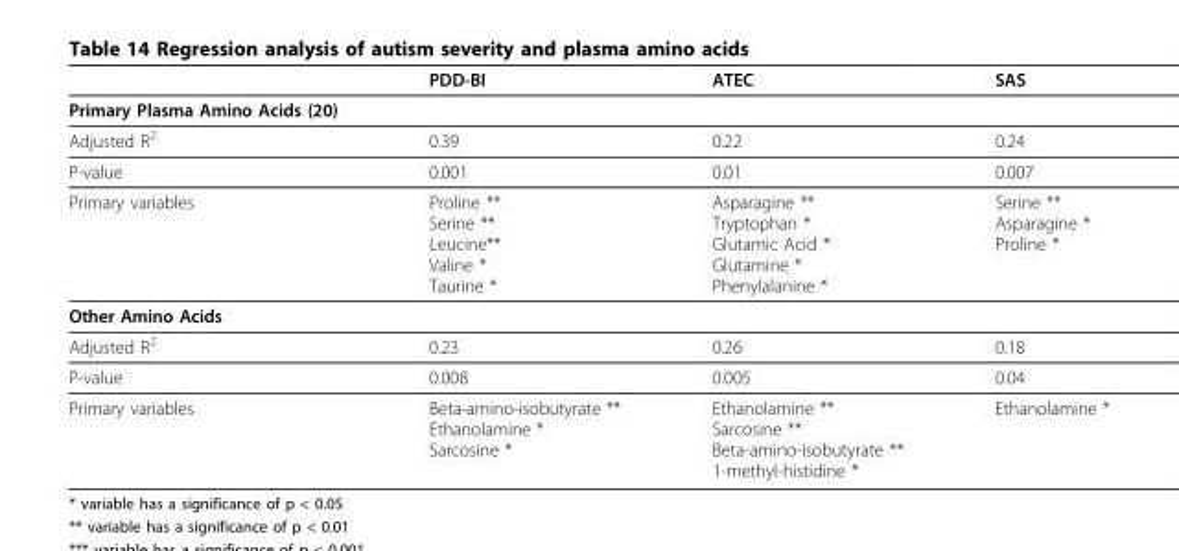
<table><thead><tr><td></td><td>PDD-BI</td><td>ATEC</td><td>SAS</td></tr></thead><tbody><tr><td colspan="4">Primary Plasma Amino Acids (20)</td></tr><tr><td>Adjusted R<sup>2</sup></td><td>0.39</td><td>0.22</td><td>0.24</td></tr><tr><td>P-value</td><td>0.001</td><td>0.01</td><td>0.007</td></tr><tr><td>Primary variables</td><td>Proline ** Serine ** Leucine** Valine * Taurine *</td><td>Asparagine ** Tryptophan * Glutamic Acid * Glutamine * Phenylalanine *</td><td>Serine ** Asparagine * Proline *</td></tr><tr><td colspan="4">Other Amino Acids</td></tr><tr><td>Adjusted R<sup>2</sup></td><td>0.23</td><td>0.26</td><td>0.18</td></tr><tr><td>P-value</td><td>0.008</td><td>0.005</td><td>0.04</td></tr><tr><td>Primary variables</td><td>Beta-amino-isobutyrate ** Ethanolamine * Sarcosine *</td><td>Ethanolamine ** Sarcosine ** Beta-amino-isobutyrate ** 1-methyl-histidine *</td><td>Ethanolamine *</td></tr></tbody></table>